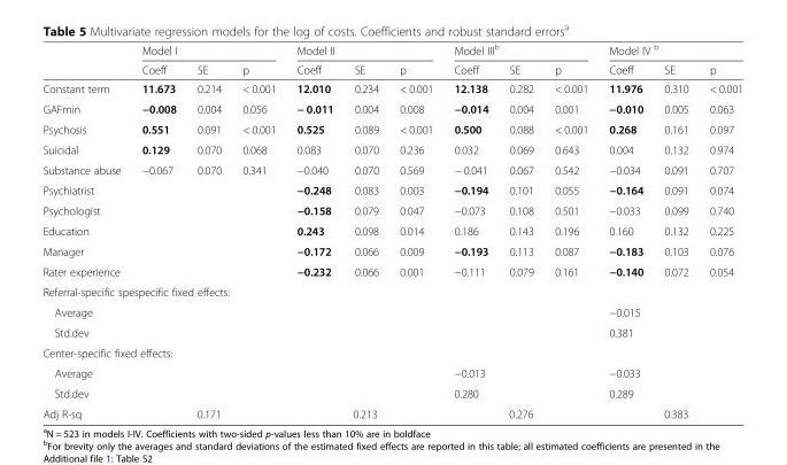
<table><thead><tr><td rowspan="2"></td><td colspan="3">Model I</td><td colspan="3">Model II</td><td colspan="3">Model III<sup>b</sup></td><td colspan="3">Model IV <sup>b</sup></td></tr><tr><td>Coeff</td><td>SE</td><td>p</td><td>Coeff</td><td>SE</td><td>p</td><td>Coeff</td><td>SE</td><td>p</td><td>Coeff</td><td>SE</td><td>p</td></tr></thead><tbody><tr><td>Constant term</td><td>11.673</td><td>0.214</td><td>&lt; 0.001</td><td>12.010</td><td>0.234</td><td>&lt; 0.001</td><td>12.138</td><td>0.282</td><td>&lt; 0.001</td><td>11.976</td><td>0.310</td><td>&lt; 0.001</td></tr><tr><td>GAFmin</td><td>−0.008</td><td>0.004</td><td>0.056</td><td>− 0.011</td><td>0.004</td><td>0.008</td><td>−0.014</td><td>0.004</td><td>0.001</td><td>−0.010</td><td>0.005</td><td>0.063</td></tr><tr><td>Psychosis</td><td>0.551</td><td>0.091</td><td>&lt; 0.001</td><td>0.525</td><td>0.089</td><td>&lt; 0.001</td><td>0.500</td><td>0.088</td><td>&lt; 0.001</td><td>0.268</td><td>0.161</td><td>0.097</td></tr><tr><td>Suicidal</td><td>0.129</td><td>0.070</td><td>0.068</td><td>0.083</td><td>0.070</td><td>0.236</td><td>0.032</td><td>0.069</td><td>0.643</td><td>0.004</td><td>0.132</td><td>0.974</td></tr><tr><td>Substance abuse</td><td>−0.067</td><td>0.070</td><td>0.341</td><td>−0.040</td><td>0.070</td><td>0.569</td><td>− 0.041</td><td>0.067</td><td>0.542</td><td>−0.034</td><td>0.091</td><td>0.707</td></tr><tr><td>Psychiatrist</td><td></td><td></td><td></td><td>−0.248</td><td>0.083</td><td>0.003</td><td>−0.194</td><td>0.101</td><td>0.055</td><td>−0.164</td><td>0.091</td><td>0.074</td></tr><tr><td>Psychologist</td><td></td><td></td><td></td><td>−0.158</td><td>0.079</td><td>0.047</td><td>−0.073</td><td>0.108</td><td>0.501</td><td>−0.033</td><td>0.099</td><td>0.740</td></tr><tr><td>Education</td><td></td><td></td><td></td><td>0.243</td><td>0.098</td><td>0.014</td><td>0.186</td><td>0.143</td><td>0.196</td><td>0.160</td><td>0.132</td><td>0.225</td></tr><tr><td>Manager</td><td></td><td></td><td></td><td>−0.172</td><td>0.066</td><td>0.009</td><td>−0.193</td><td>0.113</td><td>0.087</td><td>−0.183</td><td>0.103</td><td>0.076</td></tr><tr><td>Rater experience</td><td></td><td></td><td></td><td>−0.232</td><td>0.066</td><td>0.001</td><td>−0.111</td><td>0.079</td><td>0.161</td><td>−0.140</td><td>0.072</td><td>0.054</td></tr><tr><td colspan="13">Referral-specific spespecific fixed effects:</td></tr><tr><td>Average</td><td></td><td></td><td></td><td></td><td></td><td></td><td></td><td></td><td></td><td>−0.015</td><td></td><td></td></tr><tr><td>Std.dev</td><td></td><td></td><td></td><td></td><td></td><td></td><td></td><td></td><td></td><td>0.381</td><td></td><td></td></tr><tr><td colspan="13">Center-specific fixed effects:</td></tr><tr><td>Average</td><td></td><td></td><td></td><td></td><td></td><td></td><td>−0.013</td><td></td><td></td><td>−0.033</td><td></td><td></td></tr><tr><td>Std.dev</td><td></td><td></td><td></td><td></td><td></td><td></td><td>0.280</td><td></td><td></td><td>0.289</td><td></td><td></td></tr><tr><td>Adj R-sq</td><td colspan="3">0.171</td><td colspan="3">0.213</td><td colspan="3">0.276</td><td colspan="3">0.383</td></tr></tbody></table>